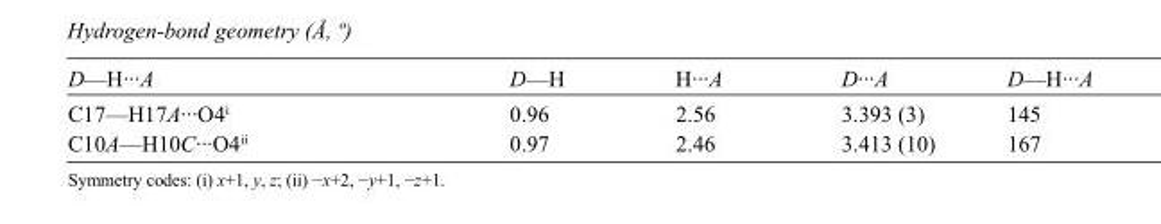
<table><tbody><tr><td>D—H···A</td><td>D—H</td><td>H···A</td><td>D···A</td><td>D—H···A</td></tr><tr><td>C17—H17A···O4<sup>i</sup></td><td>0.96</td><td>2.56</td><td>3.393 (3)</td><td>145</td></tr><tr><td>C10A—H10C···O4<sup>ii</sup></td><td>0.97</td><td>2.46</td><td>3.413 (10)</td><td>167</td></tr></tbody></table>